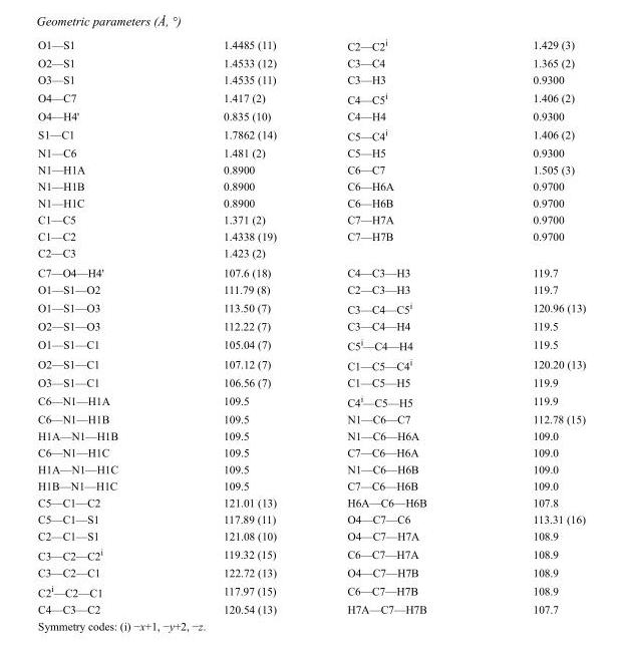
<table><tbody><tr><td>O1—S1</td><td>1.4485 (11)</td><td>C2—C2<sup>i</sup></td><td>1.429 (3)</td></tr><tr><td>O2—S1</td><td>1.4533 (12)</td><td>C3—C4</td><td>1.365 (2)</td></tr><tr><td>O3—S1</td><td>1.4535 (11)</td><td>C3—H3</td><td>0.9300</td></tr><tr><td>O4—C7</td><td>1.417 (2)</td><td>C4—C5<sup>i</sup></td><td>1.406 (2)</td></tr><tr><td>O4—H4&#x27;</td><td>0.835 (10)</td><td>C4—H4</td><td>0.9300</td></tr><tr><td>S1—C1</td><td>1.7862 (14)</td><td>C5—C4<sup>i</sup></td><td>1.406 (2)</td></tr><tr><td>N1—C6</td><td>1.481 (2)</td><td>C5—H5</td><td>0.9300</td></tr><tr><td>N1—H1A</td><td>0.8900</td><td>C6—C7</td><td>1.505 (3)</td></tr><tr><td>N1—H1B</td><td>0.8900</td><td>C6—H6A</td><td>0.9700</td></tr><tr><td>N1—H1C</td><td>0.8900</td><td>C6—H6B</td><td>0.9700</td></tr><tr><td>C1—C5</td><td>1.371 (2)</td><td>C7—H7A</td><td>0.9700</td></tr><tr><td>C1—C2</td><td>1.4338 (19)</td><td>C7—H7B</td><td>0.9700</td></tr><tr><td>C2—C3</td><td>1.423 (2)</td><td></td><td></td></tr><tr><td>C7—O4—H4&#x27;</td><td>107.6 (18)</td><td>C4—C3—H3</td><td>119.7</td></tr><tr><td>O1—S1—O2</td><td>111.79 (8)</td><td>C2—C3—H3</td><td>119.7</td></tr><tr><td>O1—S1—O3</td><td>113.50 (7)</td><td>C3—C4—C5<sup>i</sup></td><td>120.96 (13)</td></tr><tr><td>O2—S1—O3</td><td>112.22 (7)</td><td>C3—C4—H4</td><td>119.5</td></tr><tr><td>O1—S1—C1</td><td>105.04 (7)</td><td>C5<sup>i</sup>—C4—H4</td><td>119.5</td></tr><tr><td>O2—S1—C1</td><td>107.12 (7)</td><td>C1—C5—C4<sup>i</sup></td><td>120.20 (13)</td></tr><tr><td>O3—S1—C1</td><td>106.56 (7)</td><td>C1—C5—H5</td><td>119.9</td></tr><tr><td>C6—N1—H1A</td><td>109.5</td><td>C4<sup>i</sup>—C5—H5</td><td>119.9</td></tr><tr><td>C6—N1—H1B</td><td>109.5</td><td>N1—C6—C7</td><td>112.78 (15)</td></tr><tr><td>H1A—N1—H1B</td><td>109.5</td><td>N1—C6—H6A</td><td>109.0</td></tr><tr><td>C6—N1—H1C</td><td>109.5</td><td>C7—C6—H6A</td><td>109.0</td></tr><tr><td>H1A—N1—H1C</td><td>109.5</td><td>N1—C6—H6B</td><td>109.0</td></tr><tr><td>H1B—N1—H1C</td><td>109.5</td><td>C7—C6—H6B</td><td>109.0</td></tr><tr><td>C5—C1—C2</td><td>121.01 (13)</td><td>H6A—C6—H6B</td><td>107.8</td></tr><tr><td>C5—C1—S1</td><td>117.89 (11)</td><td>O4—C7—C6</td><td>113.31 (16)</td></tr><tr><td>C2—C1—S1</td><td>121.08 (10)</td><td>O4—C7—H7A</td><td>108.9</td></tr><tr><td>C3—C2—C2<sup>i</sup></td><td>119.32 (15)</td><td>C6—C7—H7A</td><td>108.9</td></tr><tr><td>C3—C2—C1</td><td>122.72 (13)</td><td>O4—C7—H7B</td><td>108.9</td></tr><tr><td>C2<sup>i</sup>—C2—C1</td><td>117.97 (15)</td><td>C6—C7—H7B</td><td>108.9</td></tr><tr><td>C4—C3—C2</td><td>120.54 (13)</td><td>H7A—C7—H7B</td><td>107.7</td></tr></tbody></table>